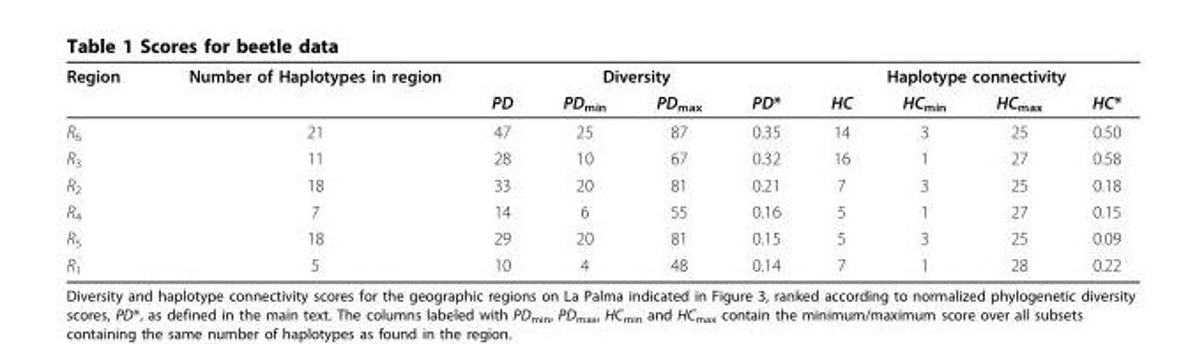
<table><thead><tr><td rowspan="2">Region</td><td rowspan="2">Number of Haplotypes in region</td><td colspan="4">Diversity</td><td colspan="4">Haplotype connectivity</td></tr><tr><td>PD</td><td>PD<sub>min</sub></td><td>PD<sub>max</sub></td><td>PD*</td><td>HC</td><td>HC<sub>min</sub></td><td>HC<sub>max</sub></td><td>HC*</td></tr></thead><tbody><tr><td>R<sub>6</sub></td><td>21</td><td>47</td><td>25</td><td>87</td><td>0.35</td><td>14</td><td>3</td><td>25</td><td>0.50</td></tr><tr><td>R<sub>3</sub></td><td>11</td><td>28</td><td>10</td><td>67</td><td>0.32</td><td>16</td><td>1</td><td>27</td><td>0.58</td></tr><tr><td>R<sub>2</sub></td><td>18</td><td>33</td><td>20</td><td>81</td><td>0.21</td><td>7</td><td>3</td><td>25</td><td>0.18</td></tr><tr><td>R<sub>4</sub></td><td>7</td><td>14</td><td>6</td><td>55</td><td>0.16</td><td>5</td><td>1</td><td>27</td><td>0.15</td></tr><tr><td>R<sub>5</sub></td><td>18</td><td>29</td><td>20</td><td>81</td><td>0.15</td><td>5</td><td>3</td><td>25</td><td>0.09</td></tr><tr><td>R<sub>1</sub></td><td>5</td><td>10</td><td>4</td><td>48</td><td>0.14</td><td>7</td><td>1</td><td>28</td><td>0.22</td></tr></tbody></table>